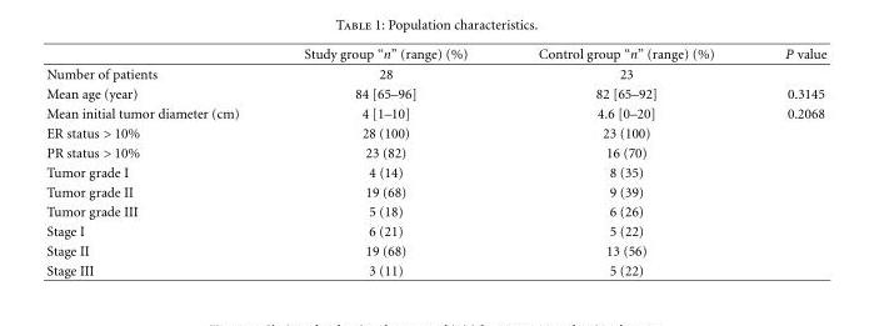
<table><thead><tr><td></td><td>Study group “n” (range) (%)</td><td>Control group “n” (range) (%)</td><td>P value</td></tr></thead><tbody><tr><td>Number of patients</td><td>28</td><td>23</td><td></td></tr><tr><td>Mean age (year)</td><td>84 [65–96]</td><td>82 [65–92]</td><td>0.3145</td></tr><tr><td>Mean initial tumor diameter (cm)</td><td>4 [1–10]</td><td>4.6 [0–20]</td><td>0.2068</td></tr><tr><td>ER status &gt; 10%</td><td>28 (100)</td><td>23 (100)</td><td></td></tr><tr><td>PR status &gt; 10%</td><td>23 (82)</td><td>16 (70)</td><td></td></tr><tr><td>Tumor grade I</td><td>4 (14)</td><td>8 (35)</td><td></td></tr><tr><td>Tumor grade II</td><td>19 (68)</td><td>9 (39)</td><td></td></tr><tr><td>Tumor grade III</td><td>5 (18)</td><td>6 (26)</td><td></td></tr><tr><td>Stage I</td><td>6 (21)</td><td>5 (22)</td><td></td></tr><tr><td>Stage II</td><td>19 (68)</td><td>13 (56)</td><td></td></tr><tr><td>Stage III</td><td>3 (11)</td><td>5 (22)</td><td></td></tr></tbody></table>